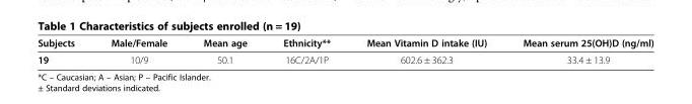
<table><thead><tr><td>Subjects</td><td>Male/Female</td><td>Mean age</td><td>Ethnicity**</td><td>Mean Vitamin D intake (IU)</td><td>Mean serum 25(OH)D (ng/ml)</td></tr></thead><tbody><tr><td>19</td><td>10/9</td><td>50.1</td><td>16C/2A/1P</td><td>602.6 ± 362.3</td><td>33.4 ± 13.9</td></tr></tbody></table>